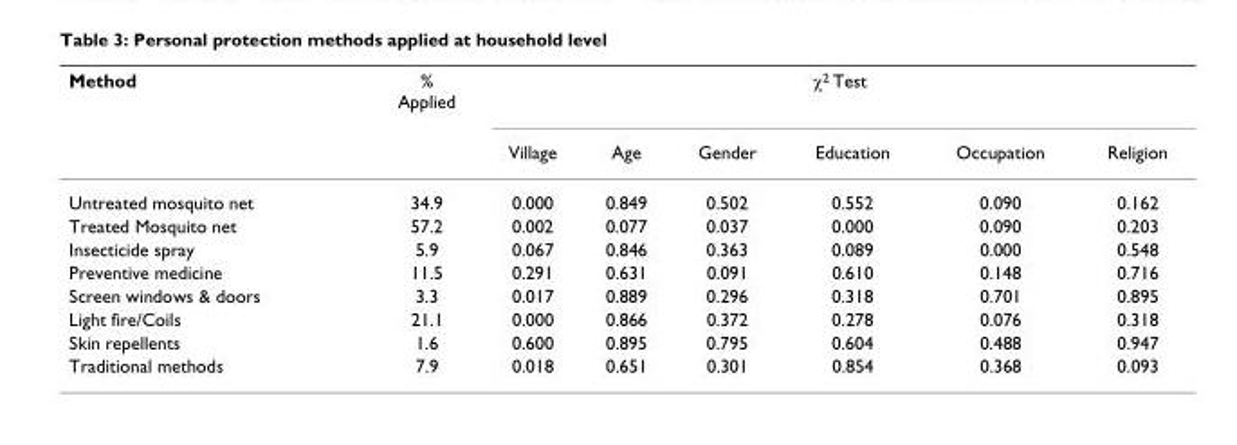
<table><thead><tr><td rowspan="2">Method</td><td rowspan="2">% Applied</td><td colspan="6">χ<sup>2</sup> Test</td></tr><tr><td>Village</td><td>Age</td><td>Gender</td><td>Education</td><td>Occupation</td><td>Religion</td></tr></thead><tbody><tr><td>Untreated mosquito net</td><td>34.9</td><td>0.000</td><td>0.849</td><td>0.502</td><td>0.552</td><td>0.090</td><td>0.162</td></tr><tr><td>Treated Mosquito net</td><td>57.2</td><td>0.002</td><td>0.077</td><td>0.037</td><td>0.000</td><td>0.090</td><td>0.203</td></tr><tr><td>Insecticide spray</td><td>5.9</td><td>0.067</td><td>0.846</td><td>0.363</td><td>0.089</td><td>0.000</td><td>0.548</td></tr><tr><td>Preventive medicine</td><td>11.5</td><td>0.291</td><td>0.631</td><td>0.091</td><td>0.610</td><td>0.148</td><td>0.716</td></tr><tr><td>Screen windows &amp; doors</td><td>3.3</td><td>0.017</td><td>0.889</td><td>0.296</td><td>0.318</td><td>0.701</td><td>0.895</td></tr><tr><td>Light fire/Coils</td><td>21.1</td><td>0.000</td><td>0.866</td><td>0.372</td><td>0.278</td><td>0.076</td><td>0.318</td></tr><tr><td>Skin repellents</td><td>1.6</td><td>0.600</td><td>0.895</td><td>0.795</td><td>0.604</td><td>0.488</td><td>0.947</td></tr><tr><td>Traditional methods</td><td>7.9</td><td>0.018</td><td>0.651</td><td>0.301</td><td>0.854</td><td>0.368</td><td>0.093</td></tr></tbody></table>